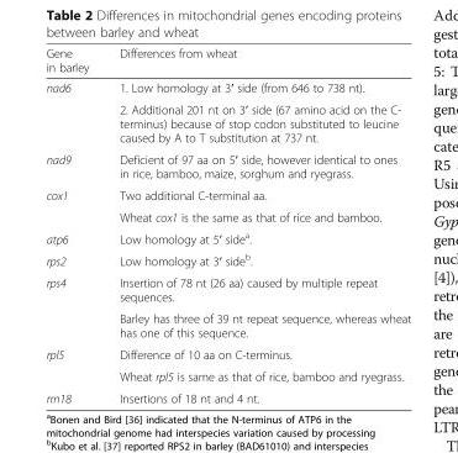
<table><thead><tr><td>Gene in barley</td><td>Differences from wheat</td></tr></thead><tbody><tr><td rowspan="2">nad6</td><td>1. Low homology at 3′ side (from 646 to 738 nt).</td></tr><tr><td>2. Additional 201 nt on 3′ side (67 amino acid on the C- terminus) because of stop codon substituted to leucine caused by A to T substitution at 737 nt.</td></tr><tr><td>nad9</td><td>Deficient of 97 aa on 5′ side, however identical to ones in rice, bamboo, maize, sorghum and ryegrass.</td></tr><tr><td rowspan="2">cox1</td><td>Two additional C-terminal aa.</td></tr><tr><td>Wheat cox1 is the same as that of rice and bamboo.</td></tr><tr><td>atp6</td><td>Low homology at 5′ side<sup>a</sup>.</td></tr><tr><td>rps2</td><td>Low homology at 3′ side<sup>b</sup>.</td></tr><tr><td rowspan="2">rps4</td><td>Insertion of 78 nt (26 aa) caused by multiple repeat sequences.</td></tr><tr><td>Barley has three of 39 nt repeat sequence, whereas wheat has one of this sequence.</td></tr><tr><td rowspan="2">rpl5</td><td>Difference of 10 aa on C-terminus.</td></tr><tr><td>Wheat rpl5 is same as that of rice, bamboo and ryegrass.</td></tr><tr><td>rrn18</td><td>Insertions of 18 nt and 4 nt.</td></tr></tbody></table>